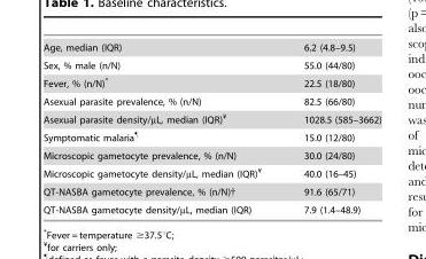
<table><tbody><tr><td>Age, median (IQR)</td><td>6.2 (4.8–9.5)</td></tr><tr><td>Sex, % male (n/N)</td><td>55.0 (44/80)</td></tr><tr><td>Fever, % (n/N)*</td><td>22.5 (18/80)</td></tr><tr><td>Asexual parasite prevalence, % (n/N)</td><td>82.5 (66/80)</td></tr><tr><td>Asexual parasite density/µL, median (IQR)¥</td><td>1028.5 (585–3662)</td></tr><tr><td>Symptomatic malaria¶</td><td>15.0 (12/80)</td></tr><tr><td>Microscopic gametocyte prevalence, % (n/N)</td><td>30.0 (24/80)</td></tr><tr><td>Microscopic gametocyte density/µL, median (IQR)¥</td><td>40.0 (16–45)</td></tr><tr><td>QT-NASBA gametocyte prevalence, % (n/N)†</td><td>91.6 (65/71)</td></tr><tr><td>QT-NASBA gametocyte density/µL, median (IQR)</td><td>7.9 (1.4–48.9)</td></tr></tbody></table>